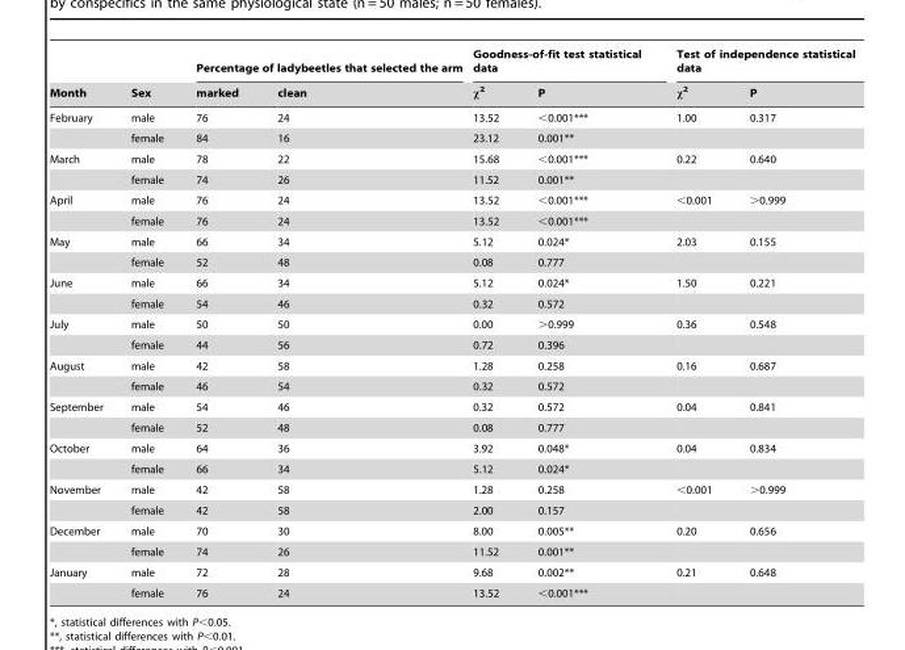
<table><thead><tr><td rowspan="2">Month</td><td rowspan="2">Sex</td><td colspan="2">Percentage of ladybeetles that selected the arm</td><td colspan="2">Goodness-of-fit test statistical data</td><td colspan="2">Test of independence statistical data</td></tr><tr><td>marked</td><td>clean</td><td>χ<sup>2</sup></td><td>P</td><td>χ<sup>2</sup></td><td>P</td></tr></thead><tbody><tr><td rowspan="2">February</td><td>male</td><td>76</td><td>24</td><td>13.52</td><td>&lt;0.001***</td><td>1.00</td><td>0.317</td></tr><tr><td>female</td><td>84</td><td>16</td><td>23.12</td><td>0.001**</td><td></td><td></td></tr><tr><td rowspan="2">March</td><td>male</td><td>78</td><td>22</td><td>15.68</td><td>&lt;0.001***</td><td>0.22</td><td>0.640</td></tr><tr><td>female</td><td>74</td><td>26</td><td>11.52</td><td>0.001**</td><td></td><td></td></tr><tr><td rowspan="2">April</td><td>male</td><td>76</td><td>24</td><td>13.52</td><td>&lt;0.001***</td><td>&lt;0.001</td><td>&gt;0.999</td></tr><tr><td>female</td><td>76</td><td>24</td><td>13.52</td><td>&lt;0.001***</td><td></td><td></td></tr><tr><td rowspan="2">May</td><td>male</td><td>66</td><td>34</td><td>5.12</td><td>0.024*</td><td>2.03</td><td>0.155</td></tr><tr><td>female</td><td>52</td><td>48</td><td>0.08</td><td>0.777</td><td></td><td></td></tr><tr><td rowspan="2">June</td><td>male</td><td>66</td><td>34</td><td>5.12</td><td>0.024*</td><td>1.50</td><td>0.221</td></tr><tr><td>female</td><td>54</td><td>46</td><td>0.32</td><td>0.572</td><td></td><td></td></tr><tr><td rowspan="2">July</td><td>male</td><td>50</td><td>50</td><td>0.00</td><td>&gt;0.999</td><td>0.36</td><td>0.548</td></tr><tr><td>female</td><td>44</td><td>56</td><td>0.72</td><td>0.396</td><td></td><td></td></tr><tr><td rowspan="2">August</td><td>male</td><td>42</td><td>58</td><td>1.28</td><td>0.258</td><td>0.16</td><td>0.687</td></tr><tr><td>female</td><td>46</td><td>54</td><td>0.32</td><td>0.572</td><td></td><td></td></tr><tr><td rowspan="2">September</td><td>male</td><td>54</td><td>46</td><td>0.32</td><td>0.572</td><td>0.04</td><td>0.841</td></tr><tr><td>female</td><td>52</td><td>48</td><td>0.08</td><td>0.777</td><td></td><td></td></tr><tr><td rowspan="2">October</td><td>male</td><td>64</td><td>36</td><td>3.92</td><td>0.048*</td><td>0.04</td><td>0.834</td></tr><tr><td>female</td><td>66</td><td>34</td><td>5.12</td><td>0.024*</td><td></td><td></td></tr><tr><td rowspan="2">November</td><td>male</td><td>42</td><td>58</td><td>1.28</td><td>0.258</td><td>&lt;0.001</td><td>&gt;0.999</td></tr><tr><td>female</td><td>42</td><td>58</td><td>2.00</td><td>0.157</td><td></td><td></td></tr><tr><td rowspan="2">December</td><td>male</td><td>70</td><td>30</td><td>8.00</td><td>0.005**</td><td>0.20</td><td>0.656</td></tr><tr><td>female</td><td>74</td><td>26</td><td>11.52</td><td>0.001**</td><td></td><td></td></tr><tr><td rowspan="2">January</td><td>male</td><td>72</td><td>28</td><td>9.68</td><td>0.002**</td><td>0.21</td><td>0.648</td></tr><tr><td>female</td><td>76</td><td>24</td><td>13.52</td><td>&lt;0.001***</td><td></td><td></td></tr></tbody></table>